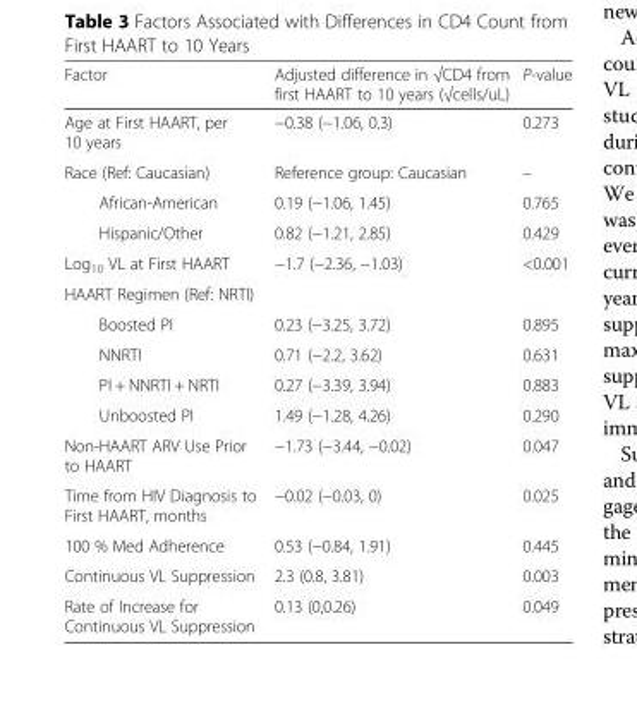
<table><thead><tr><td>Factor</td><td>Adjusted difference in √CD4 from first HAART to 10 years (√cells/uL)</td><td>P-value</td></tr></thead><tbody><tr><td>Age at First HAART, per 10 years</td><td>−0.38 (−1.06, 0.3)</td><td>0.273</td></tr><tr><td>Race (Ref: Caucasian)</td><td>Reference group: Caucasian</td><td>–</td></tr><tr><td>African-American</td><td>0.19 (−1.06, 1.45)</td><td>0.765</td></tr><tr><td>Hispanic/Other</td><td>0.82 (−1.21, 2.85)</td><td>0.429</td></tr><tr><td>Log<sub>10</sub> VL at First HAART</td><td>−1.7 (−2.36, −1.03)</td><td>&lt;0.001</td></tr><tr><td colspan="3">HAART Regimen (Ref: NRTI)</td></tr><tr><td>Boosted PI</td><td>0.23 (−3.25, 3.72)</td><td>0.895</td></tr><tr><td>NNRTI</td><td>0.71 (−2.2, 3.62)</td><td>0.631</td></tr><tr><td>PI + NNRTI + NRTI</td><td>0.27 (−3.39, 3.94)</td><td>0.883</td></tr><tr><td>Unboosted PI</td><td>1.49 (−1.28, 4.26)</td><td>0.290</td></tr><tr><td>Non-HAART ARV Use Prior to HAART</td><td>−1.73 (−3.44, −0.02)</td><td>0.047</td></tr><tr><td>Time from HIV Diagnosis to First HAART, months</td><td>−0.02 (−0.03, 0)</td><td>0.025</td></tr><tr><td>100 % Med Adherence</td><td>0.53 (−0.84, 1.91)</td><td>0.445</td></tr><tr><td>Continuous VL Suppression</td><td>2.3 (0.8, 3.81)</td><td>0.003</td></tr><tr><td>Rate of Increase for Continuous VL Suppression</td><td>0.13 (0,0.26)</td><td>0.049</td></tr></tbody></table>